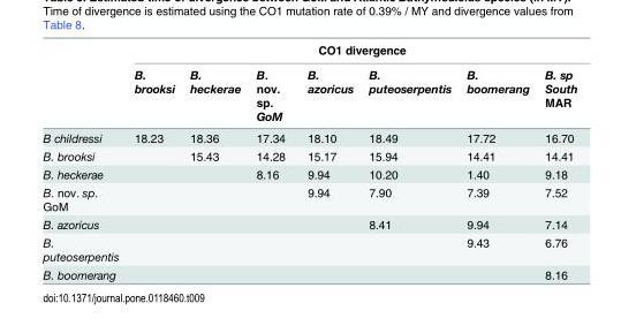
<table><thead><tr><td rowspan="2"></td><td colspan="7">CO1 divergence</td></tr><tr><td>B. brooksi</td><td>B. heckerae</td><td>B. nov. sp. GoM</td><td>B. azoricus</td><td>B. puteoserpentis</td><td>B. boomerang</td><td>B. sp South MAR</td></tr></thead><tbody><tr><td>B childressi</td><td>18.23</td><td>18.36</td><td>17.34</td><td>18.10</td><td>18.49</td><td>17.72</td><td>16.70</td></tr><tr><td>B. brooksi</td><td></td><td>15.43</td><td>14.28</td><td>15.17</td><td>15.94</td><td>14.41</td><td>14.41</td></tr><tr><td>B. heckerae</td><td></td><td></td><td>8.16</td><td>9.94</td><td>10.20</td><td>1.40</td><td>9.18</td></tr><tr><td>B. nov. sp. GoM</td><td></td><td></td><td></td><td>9.94</td><td>7.90</td><td>7.39</td><td>7.52</td></tr><tr><td>B. azoricus</td><td></td><td></td><td></td><td></td><td>8.41</td><td>9.94</td><td>7.14</td></tr><tr><td>B. puteoserpentis</td><td></td><td></td><td></td><td></td><td></td><td>9.43</td><td>6.76</td></tr><tr><td>B. boomerang</td><td></td><td></td><td></td><td></td><td></td><td></td><td>8.16</td></tr></tbody></table>